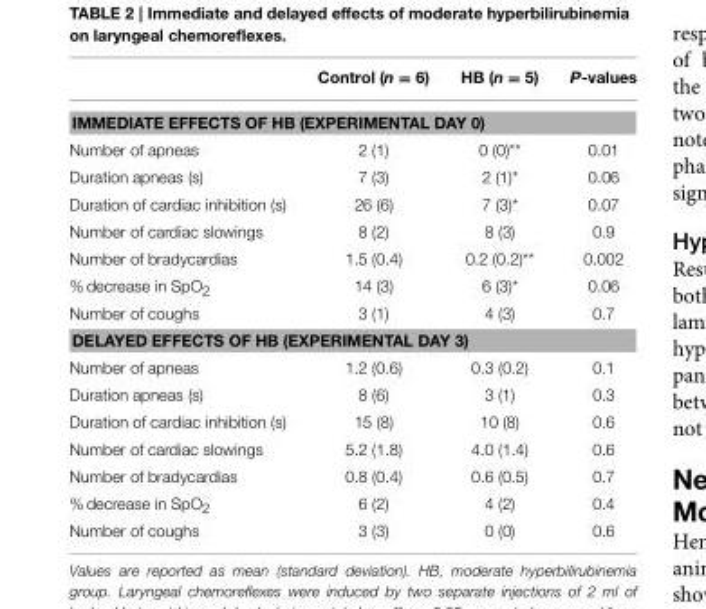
<table><thead><tr><td></td><td>Control (n = 6)</td><td>HB (n = 5)</td><td>P-values</td></tr></thead><tbody><tr><td colspan="4">IMMEDIATE EFFECTS OF HB (EXPERIMENTAL DAY 0)</td></tr><tr><td>Number of apneas</td><td>2 (1)</td><td>0 (0)**</td><td>0.01</td></tr><tr><td>Duration apneas (s)</td><td>7 (3)</td><td>2 (1)*</td><td>0.06</td></tr><tr><td>Duration of cardiac inhibition (s)</td><td>26 (6)</td><td>7 (3)*</td><td>0.07</td></tr><tr><td>Number of cardiac slowings</td><td>8 (2)</td><td>8 (3)</td><td>0.9</td></tr><tr><td>Number of bradycardias</td><td>1.5 (0.4)</td><td>0.2 (0.2)**</td><td>0.002</td></tr><tr><td>% decrease in SpO<sub>2</sub></td><td>14 (3)</td><td>6 (3)*</td><td>0.06</td></tr><tr><td>Number of coughs</td><td>3 (1)</td><td>4 (3)</td><td>0.7</td></tr><tr><td colspan="4">DELAYED EFFECTS OF HB (EXPERIMENTAL DAY 3)</td></tr><tr><td>Number of apneas</td><td>1.2 (0.6)</td><td>0.3 (0.2)</td><td>0.1</td></tr><tr><td>Duration apneas (s)</td><td>8 (6)</td><td>3 (1)</td><td>0.3</td></tr><tr><td>Duration of cardiac inhibition (s)</td><td>15 (8)</td><td>10 (8)</td><td>0.6</td></tr><tr><td>Number of cardiac slowings</td><td>5.2 (1.8)</td><td>4.0 (1.4)</td><td>0.6</td></tr><tr><td>Number of bradycardias</td><td>0.8 (0.4)</td><td>0.6 (0.5)</td><td>0.7</td></tr><tr><td>% decrease in SpO<sub>2</sub></td><td>6 (2)</td><td>4 (2)</td><td>0.4</td></tr><tr><td>Number of coughs</td><td>3 (3)</td><td>0 (0)</td><td>0.6</td></tr></tbody></table>